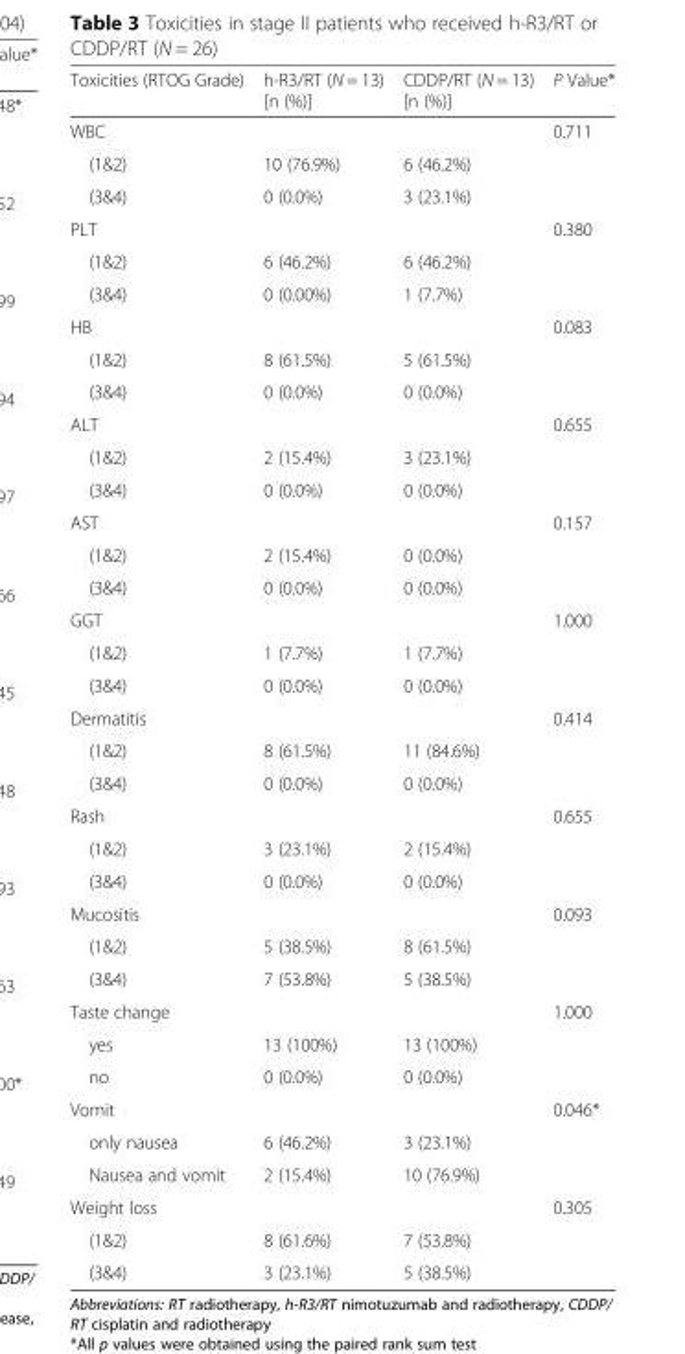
<table><thead><tr><td>Toxicities (RTOG Grade)</td><td>h-R3/RT (N = 13) [n (%)]</td><td>CDDP/RT (N = 13) [n (%)]</td><td>P Value*</td></tr></thead><tbody><tr><td>WBC</td><td></td><td></td><td>0.711</td></tr><tr><td>(1&amp;2)</td><td>10 (76.9%)</td><td>6 (46.2%)</td><td></td></tr><tr><td>(3&amp;4)</td><td>0 (0.0%)</td><td>3 (23.1%)</td><td></td></tr><tr><td>PLT</td><td></td><td></td><td>0.380</td></tr><tr><td>(1&amp;2)</td><td>6 (46.2%)</td><td>6 (46.2%)</td><td></td></tr><tr><td>(3&amp;4)</td><td>0 (0.00%)</td><td>1 (7.7%)</td><td></td></tr><tr><td>HB</td><td></td><td></td><td>0.083</td></tr><tr><td>(1&amp;2)</td><td>8 (61.5%)</td><td>5 (61.5%)</td><td></td></tr><tr><td>(3&amp;4)</td><td>0 (0.0%)</td><td>0 (0.0%)</td><td></td></tr><tr><td>ALT</td><td></td><td></td><td>0.655</td></tr><tr><td>(1&amp;2)</td><td>2 (15.4%)</td><td>3 (23.1%)</td><td></td></tr><tr><td>(3&amp;4)</td><td>0 (0.0%)</td><td>0 (0.0%)</td><td></td></tr><tr><td>AST</td><td></td><td></td><td>0.157</td></tr><tr><td>(1&amp;2)</td><td>2 (15.4%)</td><td>0 (0.0%)</td><td></td></tr><tr><td>(3&amp;4)</td><td>0 (0.0%)</td><td>0 (0.0%)</td><td></td></tr><tr><td>GGT</td><td></td><td></td><td>1.000</td></tr><tr><td>(1&amp;2)</td><td>1 (7.7%)</td><td>1 (7.7%)</td><td></td></tr><tr><td>(3&amp;4)</td><td>0 (0.0%)</td><td>0 (0.0%)</td><td></td></tr><tr><td>Dermatitis</td><td></td><td></td><td>0.414</td></tr><tr><td>(1&amp;2)</td><td>8 (61.5%)</td><td>11 (84.6%)</td><td></td></tr><tr><td>(3&amp;4)</td><td>0 (0.0%)</td><td>0 (0.0%)</td><td></td></tr><tr><td>Rash</td><td></td><td></td><td>0.655</td></tr><tr><td>(1&amp;2)</td><td>3 (23.1%)</td><td>2 (15.4%)</td><td></td></tr><tr><td>(3&amp;4)</td><td>0 (0.0%)</td><td>0 (0.0%)</td><td></td></tr><tr><td>Mucositis</td><td></td><td></td><td>0.093</td></tr><tr><td>(1&amp;2)</td><td>5 (38.5%)</td><td>8 (61.5%)</td><td></td></tr><tr><td>(3&amp;4)</td><td>7 (53.8%)</td><td>5 (38.5%)</td><td></td></tr><tr><td>Taste change</td><td></td><td></td><td>1.000</td></tr><tr><td>yes</td><td>13 (100%)</td><td>13 (100%)</td><td></td></tr><tr><td>no</td><td>0 (0.0%)</td><td>0 (0.0%)</td><td></td></tr><tr><td>Vomit</td><td></td><td></td><td>0.046*</td></tr><tr><td>only nausea</td><td>6 (46.2%)</td><td>3 (23.1%)</td><td></td></tr><tr><td>Nausea and vomit</td><td>2 (15.4%)</td><td>10 (76.9%)</td><td></td></tr><tr><td>Weight loss</td><td></td><td></td><td>0.305</td></tr><tr><td>(1&amp;2)</td><td>8 (61.6%)</td><td>7 (53.8%)</td><td></td></tr><tr><td>(3&amp;4)</td><td>3 (23.1%)</td><td>5 (38.5%)</td><td></td></tr></tbody></table>